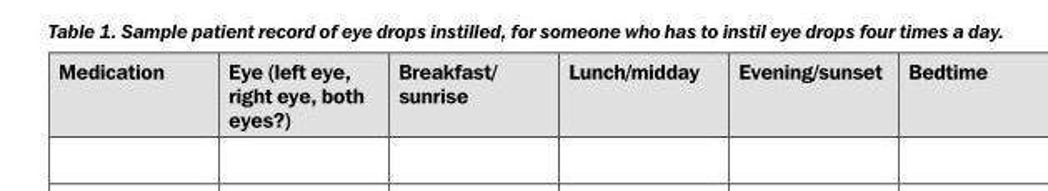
<table><thead><tr><td>medication</td><td>Eye (left eye, right eye, both eyes?)</td><td>Breakfast/ sunrise</td><td>lunch/midday</td><td>Evening/sunset</td><td>Bedtime</td></tr></thead><tbody></tbody></table>